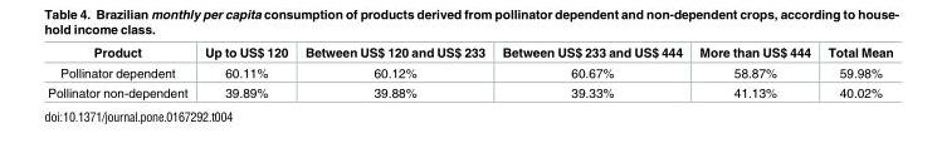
<table><thead><tr><td>Product</td><td>Up to US$ 120</td><td>Between US$ 120 and US$ 233</td><td>Between US$ 233 and US$ 444</td><td>More than US$ 444</td><td>Total Mean</td></tr></thead><tbody><tr><td>Pollinator dependent</td><td>60.11%</td><td>60.12%</td><td>60.67%</td><td>58.87%</td><td>59.98%</td></tr><tr><td>Pollinator non-dependent</td><td>39.89%</td><td>39.88%</td><td>39.33%</td><td>41.13%</td><td>40.02%</td></tr></tbody></table>